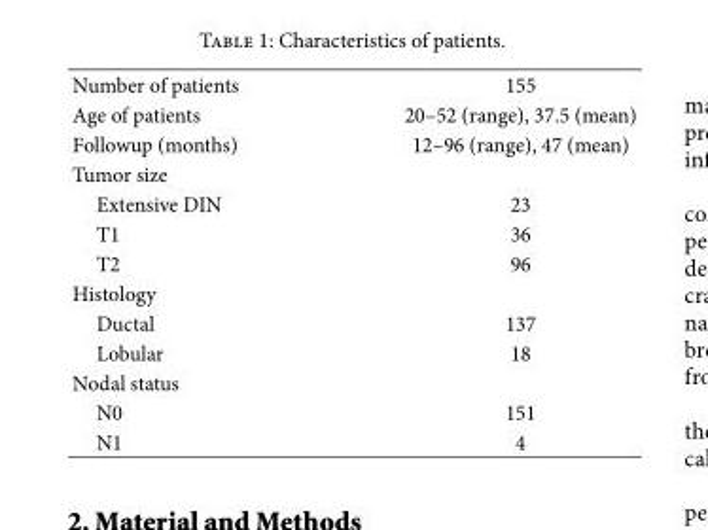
<table><tbody><tr><td>Number of patients</td><td>155</td></tr><tr><td>Age of patients</td><td>20–52 (range), 37.5 (mean)</td></tr><tr><td>Followup (months)</td><td>12–96 (range), 47 (mean)</td></tr><tr><td colspan="2">Tumor size</td></tr><tr><td>Extensive DIN</td><td>23</td></tr><tr><td>T1</td><td>36</td></tr><tr><td>T2</td><td>96</td></tr><tr><td colspan="2">Histology</td></tr><tr><td>Ductal</td><td>137</td></tr><tr><td>Lobular</td><td>18</td></tr><tr><td colspan="2">Nodal status</td></tr><tr><td>N0</td><td>151</td></tr><tr><td>N1</td><td>4</td></tr></tbody></table>